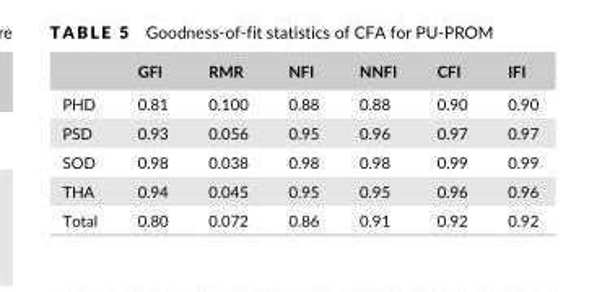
<table><thead><tr><td></td><td>GFI</td><td>RMR</td><td>NFI</td><td>NNFI</td><td>CFI</td><td>IFI</td></tr></thead><tbody><tr><td>PHD</td><td>0.81</td><td>0.100</td><td>0.88</td><td>0.88</td><td>0.90</td><td>0.90</td></tr><tr><td>PSD</td><td>0.93</td><td>0.056</td><td>0.95</td><td>0.96</td><td>0.97</td><td>0.97</td></tr><tr><td>SOD</td><td>0.98</td><td>0.038</td><td>0.98</td><td>0.98</td><td>0.99</td><td>0.99</td></tr><tr><td>THA</td><td>0.94</td><td>0.045</td><td>0.95</td><td>0.95</td><td>0.96</td><td>0.96</td></tr><tr><td>Total</td><td>0.80</td><td>0.072</td><td>0.86</td><td>0.91</td><td>0.92</td><td>0.92</td></tr></tbody></table>